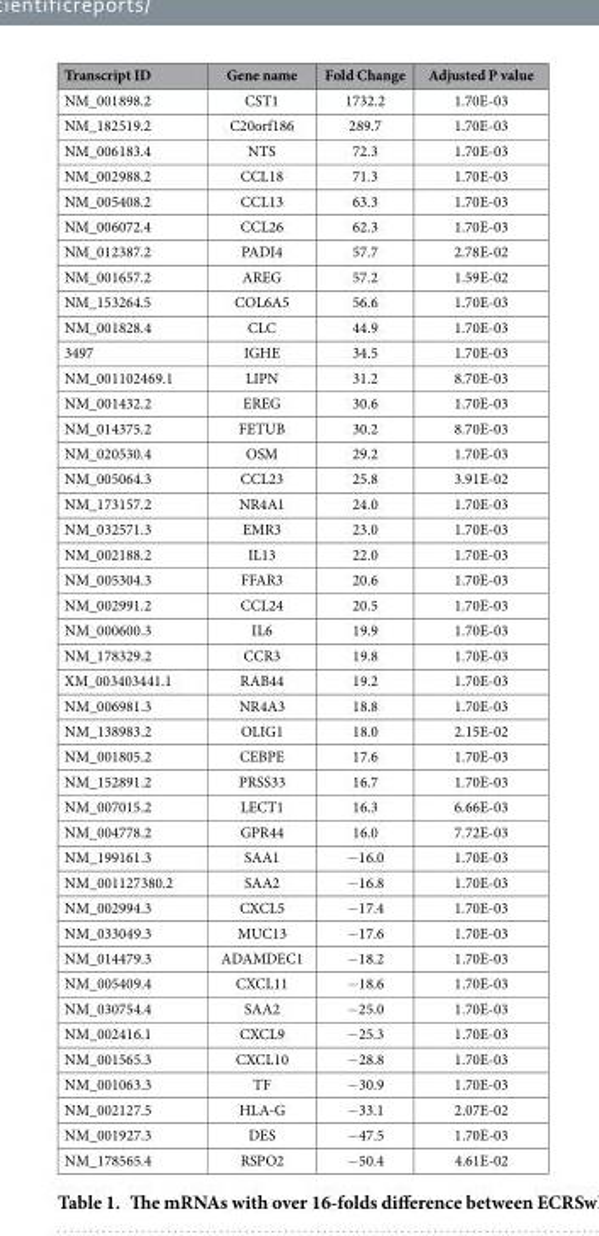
<table><thead><tr><td>Transcript ID</td><td>Gene name</td><td>Fold Change</td><td>Adjusted P value</td></tr></thead><tbody><tr><td>NM_001898.2</td><td>CST1</td><td>1732.2</td><td>1.70E-03</td></tr><tr><td>NM_182519.2</td><td>C20orf186</td><td>289.7</td><td>1.70E-03</td></tr><tr><td>NM_006183.4</td><td>NTS</td><td>72.3</td><td>1.70E-03</td></tr><tr><td>NM_002988.2</td><td>CCL18</td><td>71.3</td><td>1.70E-03</td></tr><tr><td>NM_005408.2</td><td>CCL13</td><td>63.3</td><td>1.70E-03</td></tr><tr><td>NM_006072.4</td><td>CCL26</td><td>62.3</td><td>1.70E-03</td></tr><tr><td>NM_012387.2</td><td>PADI4</td><td>57.7</td><td>2.78E-02</td></tr><tr><td>NM_001657.2</td><td>AREG</td><td>57.2</td><td>1.59E-02</td></tr><tr><td>NM_153264.5</td><td>COL6A5</td><td>56.6</td><td>1.70E-03</td></tr><tr><td>NM_001828.4</td><td>CLC</td><td>44.9</td><td>1.70E-03</td></tr><tr><td>3497</td><td>IGHE</td><td>34.5</td><td>1.70E-03</td></tr><tr><td>NM_001102469.1</td><td>LIPN</td><td>31.2</td><td>8.70E-03</td></tr><tr><td>NM_001432.2</td><td>EREG</td><td>30.6</td><td>1.70E-03</td></tr><tr><td>NM_014375.2</td><td>FETUB</td><td>30.2</td><td>8.70E-03</td></tr><tr><td>NM_020530.4</td><td>OSM</td><td>29.2</td><td>1.70E-03</td></tr><tr><td>NM_005064.3</td><td>CCL23</td><td>25.8</td><td>3.91E-02</td></tr><tr><td>NM_173157.2</td><td>NR4A1</td><td>24.0</td><td>1.70E-03</td></tr><tr><td>NM_032571.3</td><td>EMR3</td><td>23.0</td><td>1.70E-03</td></tr><tr><td>NM_002188.2</td><td>IL13</td><td>22.0</td><td>1.70E-03</td></tr><tr><td>NM_005304.3</td><td>FFAR3</td><td>20.6</td><td>1.70E-03</td></tr><tr><td>NM_002991.2</td><td>CCL24</td><td>20.5</td><td>1.70E-03</td></tr><tr><td>NM_000600.3</td><td>IL6</td><td>19.9</td><td>1.70E-03</td></tr><tr><td>NM_178329.2</td><td>CCR3</td><td>19.8</td><td>1.70E-03</td></tr><tr><td>XM_003403441.1</td><td>RAB44</td><td>19.2</td><td>1.70E-03</td></tr><tr><td>NM_006981.3</td><td>NR4A3</td><td>18.8</td><td>1.70E-03</td></tr><tr><td>NM_138983.2</td><td>OLIG1</td><td>18.0</td><td>2.15E-02</td></tr><tr><td>NM_001805.2</td><td>CEBPE</td><td>17.6</td><td>1.70E-03</td></tr><tr><td>NM_152891.2</td><td>PRSS33</td><td>16.7</td><td>1.70E-03</td></tr><tr><td>NM_007015.2</td><td>LECT1</td><td>16.3</td><td>6.66E-03</td></tr><tr><td>NM_004778.2</td><td>GPR44</td><td>16.0</td><td>7.72E-03</td></tr><tr><td>NM_199161.3</td><td>SAA1</td><td>− 16.0</td><td>1.70E-03</td></tr><tr><td>NM_001127380.2</td><td>SAA2</td><td>− 16.8</td><td>1.70E-03</td></tr><tr><td>NM_002994.3</td><td>CXCL5</td><td>− 17.4</td><td>1.70E-03</td></tr><tr><td>NM_033049.3</td><td>MUC13</td><td>− 17.6</td><td>1.70E-03</td></tr><tr><td>NM_014479.3</td><td>ADAMDEC1</td><td>− 18.2</td><td>1.70E-03</td></tr><tr><td>NM_005409.4</td><td>CXCL11</td><td>− 18.6</td><td>1.70E-03</td></tr><tr><td>NM_030754.4</td><td>SAA2</td><td>− 25.0</td><td>1.70E-03</td></tr><tr><td>NM_002416.1</td><td>CXCL9</td><td>− 25.3</td><td>1.70E-03</td></tr><tr><td>NM_001565.3</td><td>CXCL10</td><td>− 28.8</td><td>1.70E-03</td></tr><tr><td>NM_001063.3</td><td>TF</td><td>− 30.9</td><td>1.70E-03</td></tr><tr><td>NM_002127.5</td><td>HLA-G</td><td>− 33.1</td><td>2.07E-02</td></tr><tr><td>NM_001927.3</td><td>DES</td><td>− 47.5</td><td>1.70E-03</td></tr><tr><td>NM_178565.4</td><td>RSPO2</td><td>− 50.4</td><td>4.61E-02</td></tr></tbody></table>